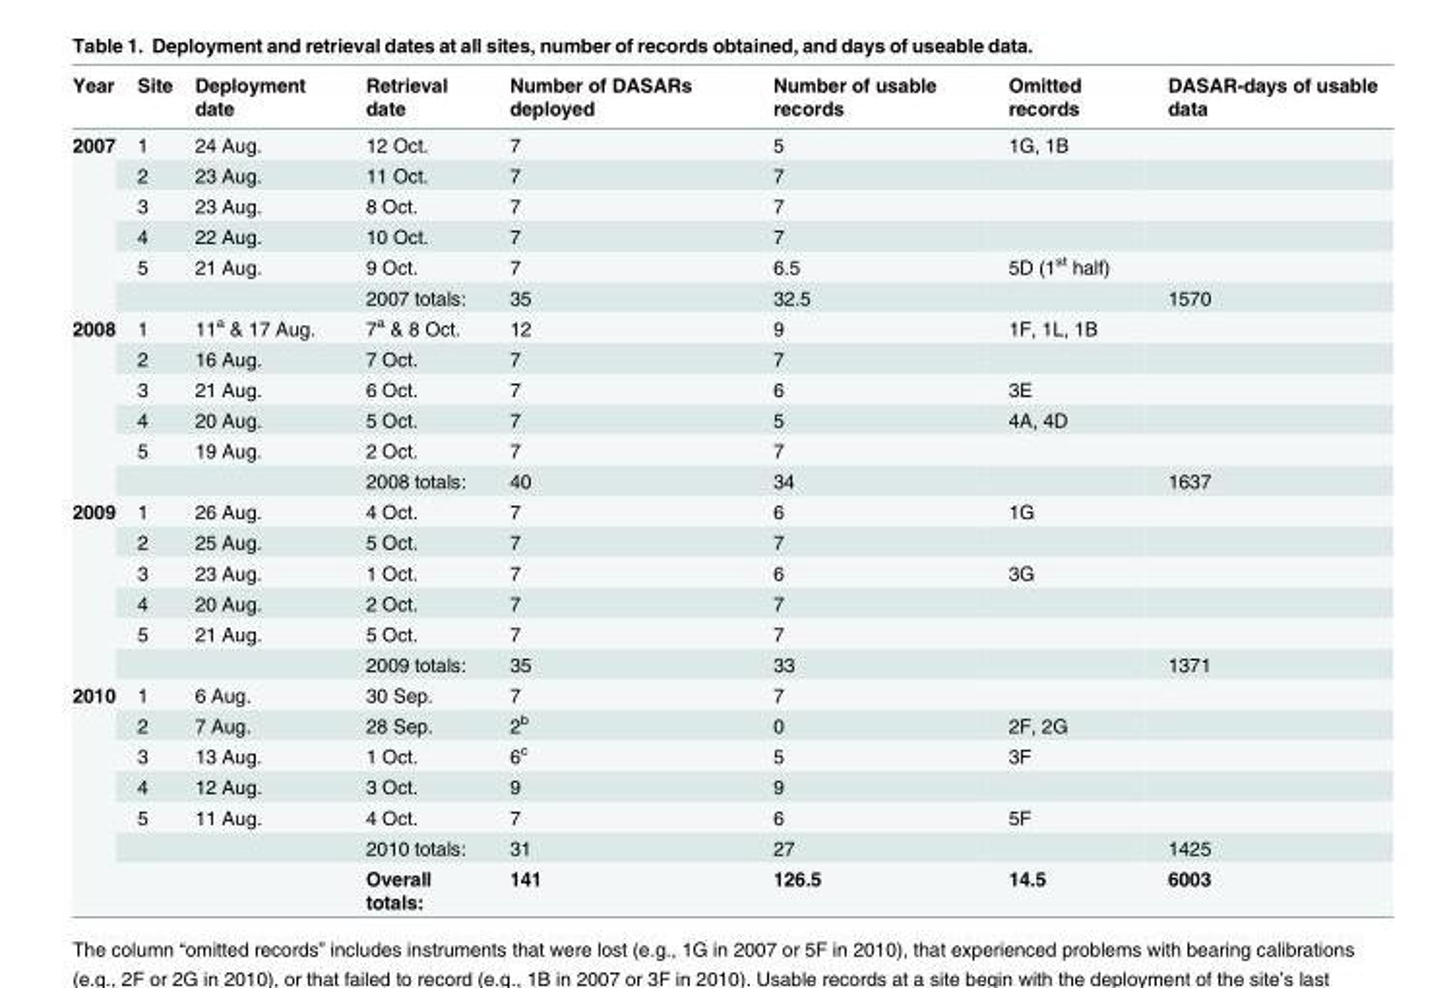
<table><thead><tr><td>Year</td><td>Site</td><td>Deployment date</td><td>Retrieval date</td><td>Number of DASARs deployed</td><td>Number of usable records</td><td>Omitted records</td><td>DASAR-days of usable data</td></tr></thead><tbody><tr><td rowspan="6">2007</td><td>1</td><td>24 Aug.</td><td>12 Oct.</td><td>7</td><td>5</td><td>1G, 1B</td><td></td></tr><tr><td>2</td><td>23 Aug.</td><td>11 Oct.</td><td>7</td><td>7</td><td></td><td></td></tr><tr><td>3</td><td>23 Aug.</td><td>8 Oct.</td><td>7</td><td>7</td><td></td><td></td></tr><tr><td>4</td><td>22 Aug.</td><td>10 Oct.</td><td>7</td><td>7</td><td></td><td></td></tr><tr><td>5</td><td>21 Aug.</td><td>9 Oct.</td><td>7</td><td>6.5</td><td>5D (1<sup>st</sup> half)</td><td></td></tr><tr><td></td><td></td><td>2007 totals:</td><td>35</td><td>32.5</td><td></td><td>1570</td></tr><tr><td rowspan="6">2008</td><td>1</td><td>11<sup>a</sup> &amp; 17 Aug.</td><td>7<sup>a</sup> &amp; 8 Oct.</td><td>12</td><td>9</td><td>1F, 1L, 1B</td><td></td></tr><tr><td>2</td><td>16 Aug.</td><td>7 Oct.</td><td>7</td><td>7</td><td></td><td></td></tr><tr><td>3</td><td>21 Aug.</td><td>6 Oct.</td><td>7</td><td>6</td><td>3E</td><td></td></tr><tr><td>4</td><td>20 Aug.</td><td>5 Oct.</td><td>7</td><td>5</td><td>4A, 4D</td><td></td></tr><tr><td>5</td><td>19 Aug.</td><td>2 Oct.</td><td>7</td><td>7</td><td></td><td></td></tr><tr><td></td><td></td><td>2008 totals:</td><td>40</td><td>34</td><td></td><td>1637</td></tr><tr><td rowspan="6">2009</td><td>1</td><td>26 Aug.</td><td>4 Oct.</td><td>7</td><td>6</td><td>1G</td><td></td></tr><tr><td>2</td><td>25 Aug.</td><td>5 Oct.</td><td>7</td><td>7</td><td></td><td></td></tr><tr><td>3</td><td>23 Aug.</td><td>1 Oct.</td><td>7</td><td>6</td><td>3G</td><td></td></tr><tr><td>4</td><td>20 Aug.</td><td>2 Oct.</td><td>7</td><td>7</td><td></td><td></td></tr><tr><td>5</td><td>21 Aug.</td><td>5 Oct.</td><td>7</td><td>7</td><td></td><td></td></tr><tr><td></td><td></td><td>2009 totals:</td><td>35</td><td>33</td><td></td><td>1371</td></tr><tr><td rowspan="7">2010</td><td>1</td><td>6 Aug.</td><td>30 Sep.</td><td>7</td><td>7</td><td></td><td></td></tr><tr><td>2</td><td>7 Aug.</td><td>28 Sep.</td><td>2<sup>b</sup></td><td>0</td><td>2F, 2G</td><td></td></tr><tr><td>3</td><td>13 Aug.</td><td>1 Oct.</td><td>6<sup>c</sup></td><td>5</td><td>3F</td><td></td></tr><tr><td>4</td><td>12 Aug.</td><td>3 Oct.</td><td>9</td><td>9</td><td></td><td></td></tr><tr><td>5</td><td>11 Aug.</td><td>4 Oct.</td><td>7</td><td>6</td><td>5F</td><td></td></tr><tr><td></td><td></td><td>2010 totals:</td><td>31</td><td>27</td><td></td><td>1425</td></tr><tr><td></td><td></td><td>Overall totals:</td><td>141</td><td>126.5</td><td>14.5</td><td>6003</td></tr></tbody></table>